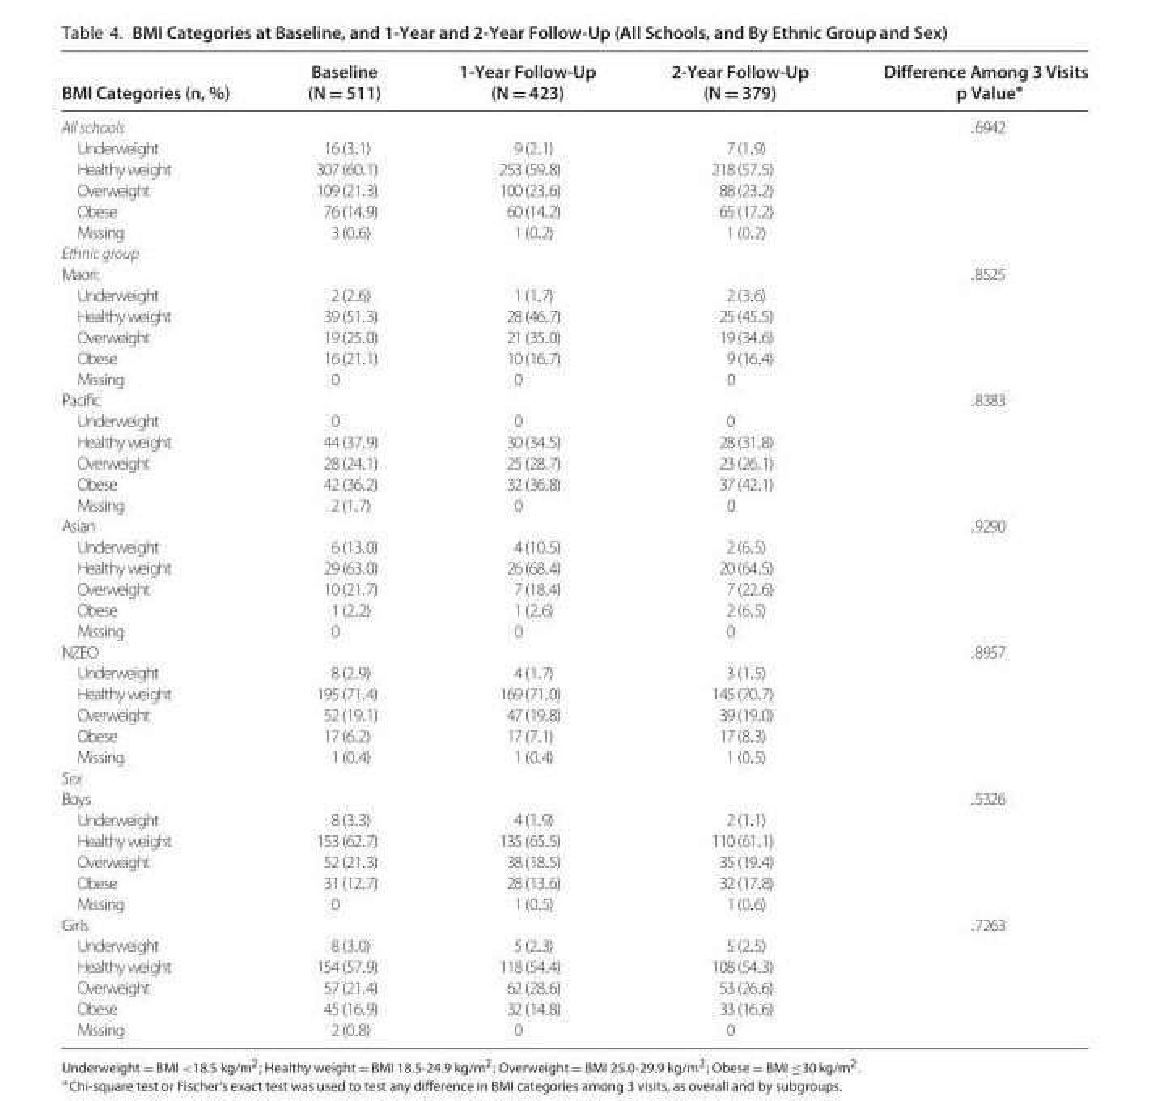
<table><thead><tr><td>BMI Categories (n, %)</td><td>Baseline (N = 511)</td><td>1-Year Follow-Up (N = 423)</td><td>2-Year Follow-Up (N = 379)</td><td>Difference Among 3 Visits p Value∗</td></tr></thead><tbody><tr><td>All schools</td><td></td><td></td><td></td><td>.6942</td></tr><tr><td>Underweight</td><td>16(3.1)</td><td>9(2.1)</td><td>7(1.9)</td><td></td></tr><tr><td>Healthyweight</td><td>307(60.1)</td><td>253(59.8)</td><td>218(57.5)</td><td></td></tr><tr><td>Overweight</td><td>109(21.3)</td><td>100(23.6)</td><td>88(23.2)</td><td></td></tr><tr><td>Obese</td><td>76(14.9)</td><td>60(14.2)</td><td>65(17.2)</td><td></td></tr><tr><td>Missing</td><td>3(0.6)</td><td>1(0.2)</td><td>1(0.2)</td><td></td></tr><tr><td colspan="5">Ethnic group</td></tr><tr><td>Maori:</td><td></td><td></td><td></td><td>.8525</td></tr><tr><td>Underweight</td><td>2(2.6)</td><td>1(1.7)</td><td>2(3.6)</td><td></td></tr><tr><td>Healthyweight</td><td>39(51.3)</td><td>28(46.7)</td><td>25(45.5)</td><td></td></tr><tr><td>Overweight</td><td>19(25.0)</td><td>21(35.0)</td><td>19(34.6)</td><td></td></tr><tr><td>Obese</td><td>16(21.1)</td><td>10(16.7)</td><td>9(16.4)</td><td></td></tr><tr><td>Missing</td><td>0</td><td>0</td><td>0</td><td></td></tr><tr><td>Pacific</td><td></td><td></td><td></td><td>.8383</td></tr><tr><td>Underweight</td><td>0</td><td>0</td><td>0</td><td></td></tr><tr><td>Healthyweight</td><td>44(37.9)</td><td>30(34.5)</td><td>28(31.8)</td><td></td></tr><tr><td>Overweight</td><td>28(24.1)</td><td>25(28.7)</td><td>23(26.1)</td><td></td></tr><tr><td>Obese</td><td>42(36.2)</td><td>32(36.8)</td><td>37(42.1)</td><td></td></tr><tr><td>Missing</td><td>2(1.7)</td><td>0</td><td>0</td><td></td></tr><tr><td>Asian</td><td></td><td></td><td></td><td>.9290</td></tr><tr><td>Underweight</td><td>6(13.0)</td><td>4(10.5)</td><td>2(6.5)</td><td></td></tr><tr><td>Healthyweight</td><td>29(63.0)</td><td>26(68.4)</td><td>20(64.5)</td><td></td></tr><tr><td>Overweight</td><td>10(21.7)</td><td>7(18.4)</td><td>7(22.6)</td><td></td></tr><tr><td>Obese</td><td>1(2.2)</td><td>1(2.6)</td><td>2(6.5)</td><td></td></tr><tr><td>Missing</td><td>0</td><td>0</td><td>0</td><td></td></tr><tr><td>NZEO</td><td></td><td></td><td></td><td>.8957</td></tr><tr><td>Underweight</td><td>8(2.9)</td><td>4(1.7)</td><td>3(1.5)</td><td></td></tr><tr><td>Healthyweight</td><td>195(71.4)</td><td>169(71.0)</td><td>145(70.7)</td><td></td></tr><tr><td>Overweight</td><td>52(19.1)</td><td>47(19.8)</td><td>39(19.0)</td><td></td></tr><tr><td>Obese</td><td>17(6.2)</td><td>17(7.1)</td><td>17(8.3)</td><td></td></tr><tr><td>Missing</td><td>1(0.4)</td><td>1(0.4)</td><td>1(0.5)</td><td></td></tr><tr><td colspan="5">Sex</td></tr><tr><td>Boys</td><td></td><td></td><td></td><td>.5326</td></tr><tr><td>Underweight</td><td>8(3.3)</td><td>4(1.9)</td><td>2(1.1)</td><td></td></tr><tr><td>Healthyweight</td><td>153(62.7)</td><td>135(65.5)</td><td>110(61.1)</td><td></td></tr><tr><td>Overweight</td><td>52(21.3)</td><td>38(18.5)</td><td>35(19.4)</td><td></td></tr><tr><td>Obese</td><td>31(12.7)</td><td>28(13.6)</td><td>32(17.8)</td><td></td></tr><tr><td>Missing</td><td>0</td><td>1(0.5)</td><td>1(0.6)</td><td></td></tr><tr><td>Girls</td><td></td><td></td><td></td><td>.7263</td></tr><tr><td>Underweight</td><td>8(3.0)</td><td>5(2.3)</td><td>5(2.5)</td><td></td></tr><tr><td>Healthyweight</td><td>154(57.9)</td><td>118(54.4)</td><td>108(54.3)</td><td></td></tr><tr><td>Overweight</td><td>57(21.4)</td><td>62(28.6)</td><td>53(26.6)</td><td></td></tr><tr><td>Obese</td><td>45(16.9)</td><td>32(14.8)</td><td>33(16.6)</td><td></td></tr><tr><td>Missing</td><td>2(0.8)</td><td>0</td><td>0</td><td></td></tr></tbody></table>